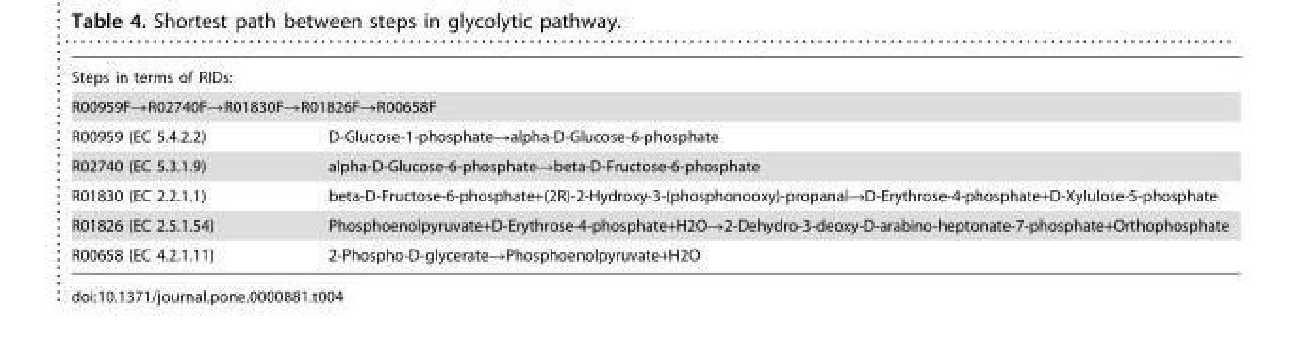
<table><tbody><tr><td colspan="2">Steps in terms of RIDs:</td></tr><tr><td colspan="2">R00959F→R02740F→R01830F→R01826F→R00658F</td></tr><tr><td>R00959 (EC 5.4.2.2)</td><td>D-Glucose-1-phosphate→alpha-D-Glucose-6-phosphate</td></tr><tr><td>R02740 (EC 5.3.1.9)</td><td>alpha-D-Glucose-6-phosphate→beta-D-Fructose-6-phosphate</td></tr><tr><td>R01830 (EC 2.2.1.1)</td><td>beta-D-Fructose-6-phosphate+(2R)-2-Hydroxy-3-(phosphonooxy)-propanal→D-Erythrose-4-phosphate+D-Xylulose-5-phosphate</td></tr><tr><td>R01826 (EC 2.5.1.54)</td><td>Phosphoenolpyruvate+D-Erythrose-4-phosphate+H2O→2-Dehydro-3-deoxy-D-arabino-heptonate-7-phosphate+Orthophosphate</td></tr><tr><td>R00658 (EC 4.2.1.11)</td><td>2-Phospho-D-glycerate→Phosphoenolpyruvate+H2O</td></tr></tbody></table>